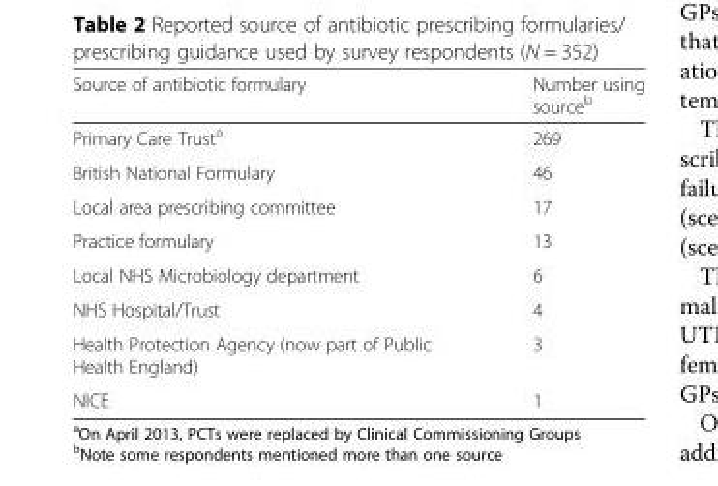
<table><thead><tr><td>Source of antibiotic formulary</td><td>Number using source<sup>b</sup></td></tr></thead><tbody><tr><td>Primary Care Trust<sup>a</sup></td><td>269</td></tr><tr><td>British National Formulary</td><td>46</td></tr><tr><td>Local area prescribing committee</td><td>17</td></tr><tr><td>Practice formulary</td><td>13</td></tr><tr><td>Local NHS Microbiology department</td><td>6</td></tr><tr><td>NHS Hospital/Trust</td><td>4</td></tr><tr><td>Health Protection Agency (now part of Public Health England)</td><td>3</td></tr><tr><td>NICE</td><td>1</td></tr></tbody></table>